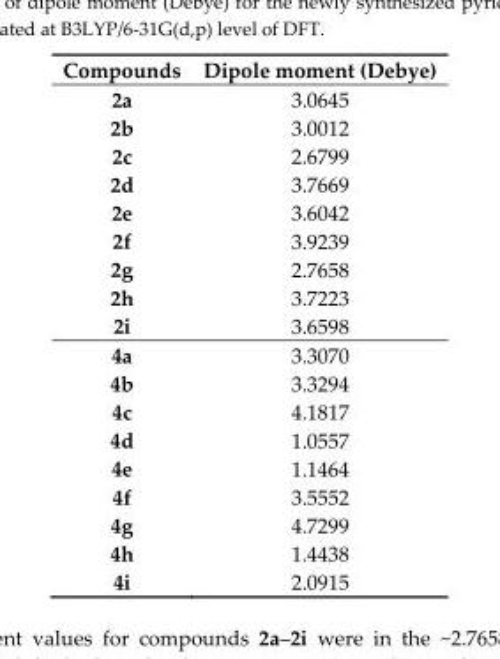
<table><thead><tr><td>Compounds</td><td>Dipole moment (Debye)</td></tr></thead><tbody><tr><td>2a</td><td>3.0645</td></tr><tr><td>2b</td><td>3.0012</td></tr><tr><td>2c</td><td>2.6799</td></tr><tr><td>2d</td><td>3.7669</td></tr><tr><td>2e</td><td>3.6042</td></tr><tr><td>2f</td><td>3.9239</td></tr><tr><td>2g</td><td>2.7658</td></tr><tr><td>2h</td><td>3.7223</td></tr><tr><td>2i</td><td>3.6598</td></tr><tr><td>4a</td><td>3.3070</td></tr><tr><td>4b</td><td>3.3294</td></tr><tr><td>4c</td><td>4.1817</td></tr><tr><td>4d</td><td>1.0557</td></tr><tr><td>4e</td><td>1.1464</td></tr><tr><td>4f</td><td>3.5552</td></tr><tr><td>4g</td><td>4.7299</td></tr><tr><td>4h</td><td>1.4438</td></tr><tr><td>4i</td><td>2.0915</td></tr></tbody></table>